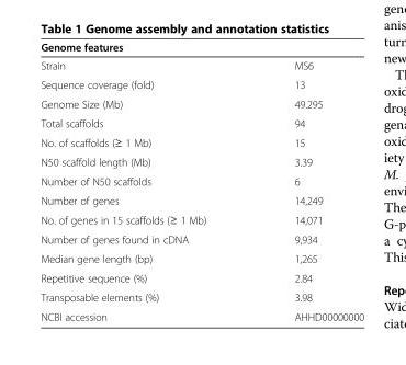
<table><thead><tr><td>Genome features</td><td></td></tr></thead><tbody><tr><td>Strain</td><td>MS6</td></tr><tr><td>Sequence coverage (fold)</td><td>13</td></tr><tr><td>Genome Size (Mb)</td><td>49.295</td></tr><tr><td>Total scaffolds</td><td>94</td></tr><tr><td>No. of scaffolds (≥ 1 Mb)</td><td>15</td></tr><tr><td>N50 scaffold length (Mb)</td><td>3.39</td></tr><tr><td>Number of N50 scaffolds</td><td>6</td></tr><tr><td>Number of genes</td><td>14,249</td></tr><tr><td>No. of genes in 15 scaffolds (≥ 1 Mb)</td><td>14,071</td></tr><tr><td>Number of genes found in cDNA</td><td>9,934</td></tr><tr><td>Median gene length (bp)</td><td>1,265</td></tr><tr><td>Repetitive sequence (%)</td><td>2.84</td></tr><tr><td>Transposable elements (%)</td><td>3.98</td></tr><tr><td>NCBI accession</td><td>AHHD00000000</td></tr></tbody></table>